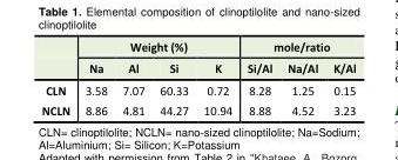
<table><thead><tr><td rowspan="2"></td><td colspan="4">Weight (%)</td><td colspan="3">mole/ratio</td></tr><tr><td>Na</td><td>Al</td><td>Si</td><td>K</td><td>Si/Al</td><td>Na/Al</td><td>K/Al</td></tr></thead><tbody><tr><td>CLN</td><td>3.58</td><td>7.07</td><td>60.33</td><td>0.72</td><td>8.28</td><td>1.25</td><td>0.15</td></tr><tr><td>NCLN</td><td>8.86</td><td>4.81</td><td>44.27</td><td>10.94</td><td>8.88</td><td>4.52</td><td>3.23</td></tr></tbody></table>